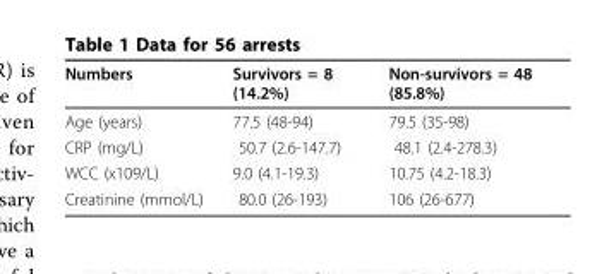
<table><thead><tr><td>Numbers</td><td>Survivors = 8 (14.2%)</td><td>Non-survivors = 48 (85.8%)</td></tr></thead><tbody><tr><td>Age (years)</td><td>77.5 (48-94)</td><td>79.5 (35-98)</td></tr><tr><td>CRP (mg/L)</td><td>50.7 (2.6-147.7)</td><td>48.1 (2.4-278.3)</td></tr><tr><td>WCC (x109/L)</td><td>9.0 (4.1-19.3)</td><td>10.75 (4.2-18.3)</td></tr><tr><td>Creatinine (mmol/L)</td><td>80.0 (26-193)</td><td>106 (26-677)</td></tr></tbody></table>